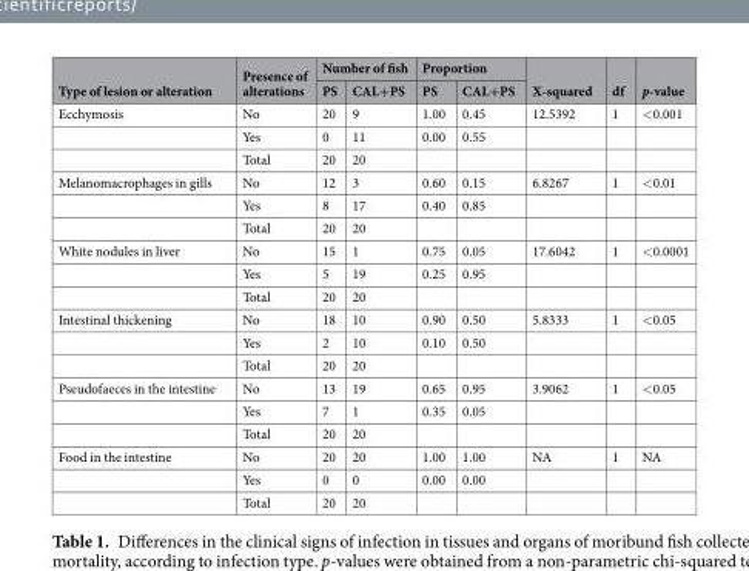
<table><thead><tr><td rowspan="2">Type of lesion or alteration</td><td rowspan="2">Presence of alterations</td><td colspan="2">Number of fish</td><td colspan="2">Proportion</td><td rowspan="2">X-squared</td><td rowspan="2">df</td><td rowspan="2">p-value</td></tr><tr><td>PS</td><td>CAL+PS</td><td>PS</td><td>CAL+PS</td></tr></thead><tbody><tr><td rowspan="3">Ecchymosis</td><td>No</td><td>20</td><td>9</td><td>1.00</td><td>0.45</td><td>12.5392</td><td>1</td><td>&lt;0.001</td></tr><tr><td>Yes</td><td>0</td><td>11</td><td>0.00</td><td>0.55</td><td></td><td></td><td></td></tr><tr><td>Total</td><td>20</td><td>20</td><td></td><td></td><td></td><td></td><td></td></tr><tr><td rowspan="3">Melanomacrophages in gills</td><td>No</td><td>12</td><td>3</td><td>0.60</td><td>0.15</td><td>6.8267</td><td>1</td><td>&lt;0.01</td></tr><tr><td>Yes</td><td>8</td><td>17</td><td>0.40</td><td>0.85</td><td></td><td></td><td></td></tr><tr><td>Total</td><td>20</td><td>20</td><td></td><td></td><td></td><td></td><td></td></tr><tr><td rowspan="3">White nodules in liver</td><td>No</td><td>15</td><td>1</td><td>0.75</td><td>0.05</td><td>17.6042</td><td>1</td><td>&lt;0.0001</td></tr><tr><td>Yes</td><td>5</td><td>19</td><td>0.25</td><td>0.95</td><td></td><td></td><td></td></tr><tr><td>Total</td><td>20</td><td>20</td><td></td><td></td><td></td><td></td><td></td></tr><tr><td rowspan="3">Intestinal thickening</td><td>No</td><td>18</td><td>10</td><td>0.90</td><td>0.50</td><td>5.8333</td><td>1</td><td>&lt;0.05</td></tr><tr><td>Yes</td><td>2</td><td>10</td><td>0.10</td><td>0.50</td><td></td><td></td><td></td></tr><tr><td>Total</td><td>20</td><td>20</td><td></td><td></td><td></td><td></td><td></td></tr><tr><td rowspan="3">Pseudofaeces in the intestine</td><td>No</td><td>13</td><td>19</td><td>0.65</td><td>0.95</td><td>3.9062</td><td>1</td><td>&lt;0.05</td></tr><tr><td>Yes</td><td>7</td><td>1</td><td>0.35</td><td>0.05</td><td></td><td></td><td></td></tr><tr><td>Total</td><td>20</td><td>20</td><td></td><td></td><td></td><td></td><td></td></tr><tr><td rowspan="3">Food in the intestine</td><td>No</td><td>20</td><td>20</td><td>1.00</td><td>1.00</td><td>NA</td><td>1</td><td>NA</td></tr><tr><td>Yes</td><td>0</td><td>0</td><td>0.00</td><td>0.00</td><td></td><td></td><td></td></tr><tr><td>Total</td><td>20</td><td>20</td><td></td><td></td><td></td><td></td><td></td></tr></tbody></table>